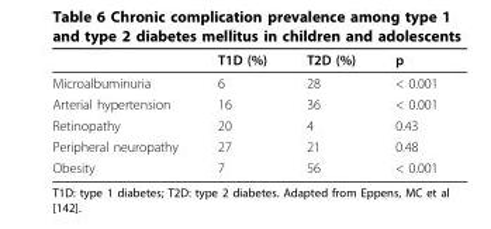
<table><thead><tr><td></td><td>T1D (%)</td><td>T2D (%)</td><td>p</td></tr></thead><tbody><tr><td>Microalbuminuria</td><td>6</td><td>28</td><td>&lt; 0.001</td></tr><tr><td>Arterial hypertension</td><td>16</td><td>36</td><td>&lt; 0.001</td></tr><tr><td>Retinopathy</td><td>20</td><td>4</td><td>0.43</td></tr><tr><td>Peripheral neuropathy</td><td>27</td><td>21</td><td>0.48</td></tr><tr><td>Obesity</td><td>7</td><td>56</td><td>&lt; 0.001</td></tr></tbody></table>